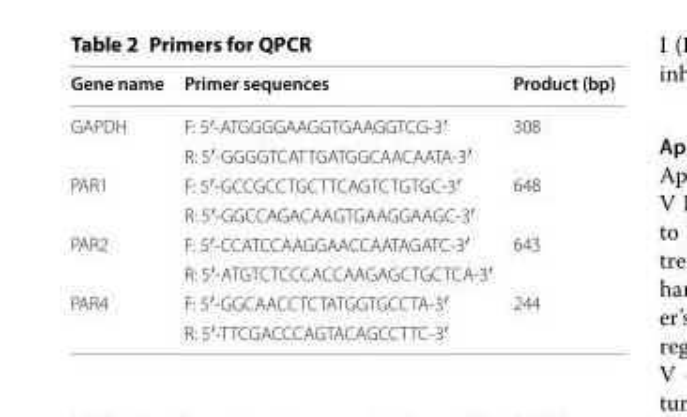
<table><thead><tr><td>Gene name</td><td>Primer sequences</td><td>Product (bp)</td></tr></thead><tbody><tr><td rowspan="2">GAPDH</td><td>F: 5′-ATG GGG AAG GTG AAG GTC G-3′</td><td rowspan="2">308</td></tr><tr><td>R: 5′-GGG GTC ATT GAT GGC AAC AATA-3′</td></tr><tr><td rowspan="2">PAR1</td><td>F: 5′-GCC GCC TGC TTC AGT CTG TGC-3′</td><td rowspan="2">648</td></tr><tr><td>R: 5′-GGC CAG ACA AGT GAA GGA AGC-3′</td></tr><tr><td rowspan="2">PAR2</td><td>F: 5′-CCA TCC AAG GAA CCA ATA GATC-3′</td><td rowspan="2">643</td></tr><tr><td>R: 5′-ATG TCT CCC ACC AAG AGC TGC TCA -3′</td></tr><tr><td rowspan="2">PAR4</td><td>F: 5′-GGC AAC CTC TAT GGT GCC TA-3′</td><td rowspan="2">244</td></tr><tr><td>R: 5′-TTC GAC CCA GTA CAG CCT TC-3′</td></tr></tbody></table>